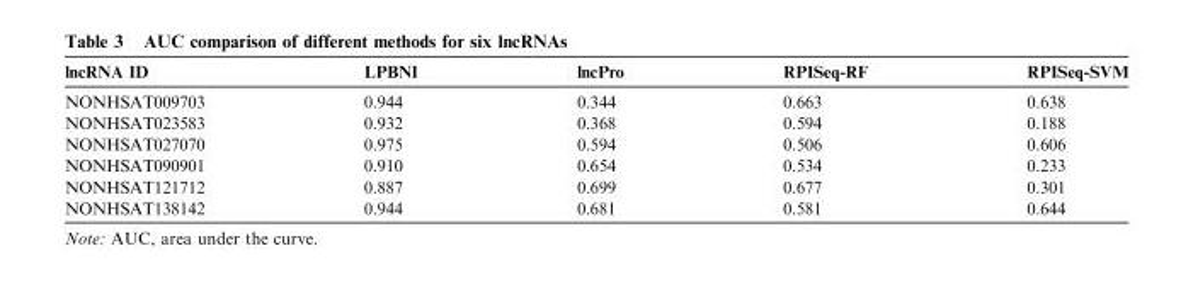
<table><thead><tr><td>lncRNA ID</td><td>LPBNI</td><td>lncPro</td><td>RPISeq-RF</td><td>RPISeq-SVM</td></tr></thead><tbody><tr><td>NONHSAT009703</td><td>0.944</td><td>0.344</td><td>0.663</td><td>0.638</td></tr><tr><td>NONHSAT023583</td><td>0.932</td><td>0.368</td><td>0.594</td><td>0.188</td></tr><tr><td>NONHSAT027070</td><td>0.975</td><td>0.594</td><td>0.506</td><td>0.606</td></tr><tr><td>NONHSAT090901</td><td>0.910</td><td>0.654</td><td>0.534</td><td>0.233</td></tr><tr><td>NONHSAT121712</td><td>0.887</td><td>0.699</td><td>0.677</td><td>0.301</td></tr><tr><td>NONHSAT138142</td><td>0.944</td><td>0.681</td><td>0.581</td><td>0.644</td></tr></tbody></table>